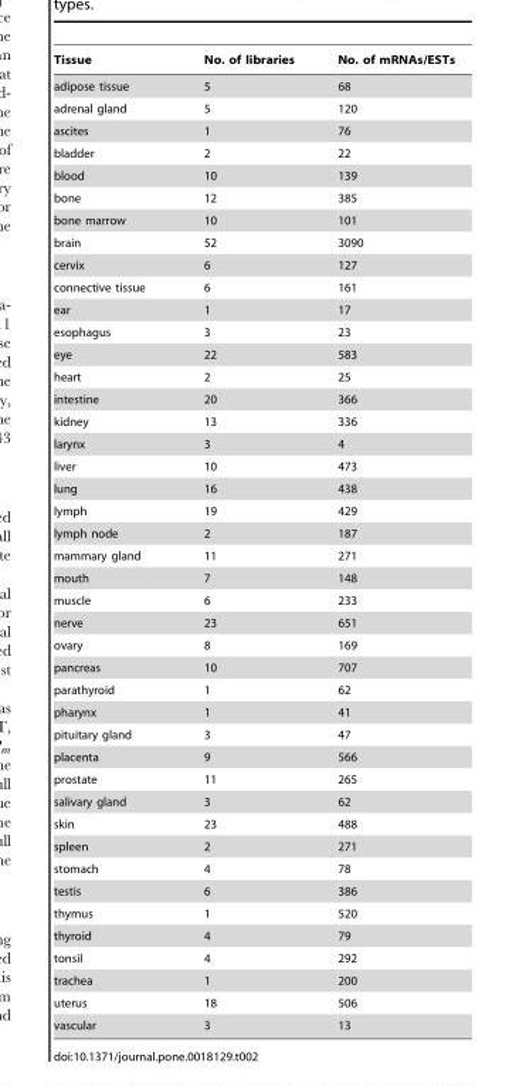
<table><thead><tr><td>Tissue</td><td>No. of libraries</td><td>No. of mRNAs/ESTs</td></tr></thead><tbody><tr><td>adipose tissue</td><td>5</td><td>68</td></tr><tr><td>adrenal gland</td><td>5</td><td>120</td></tr><tr><td>ascites</td><td>1</td><td>76</td></tr><tr><td>bladder</td><td>2</td><td>22</td></tr><tr><td>blood</td><td>10</td><td>139</td></tr><tr><td>bone</td><td>12</td><td>385</td></tr><tr><td>bone marrow</td><td>10</td><td>101</td></tr><tr><td>brain</td><td>52</td><td>3090</td></tr><tr><td>cervix</td><td>6</td><td>127</td></tr><tr><td>connective tissue</td><td>6</td><td>161</td></tr><tr><td>ear</td><td>1</td><td>17</td></tr><tr><td>esophagus</td><td>3</td><td>23</td></tr><tr><td>eye</td><td>22</td><td>583</td></tr><tr><td>heart</td><td>2</td><td>25</td></tr><tr><td>intestine</td><td>20</td><td>366</td></tr><tr><td>kidney</td><td>13</td><td>336</td></tr><tr><td>larynx</td><td>3</td><td>4</td></tr><tr><td>liver</td><td>10</td><td>473</td></tr><tr><td>lung</td><td>16</td><td>438</td></tr><tr><td>lymph</td><td>19</td><td>429</td></tr><tr><td>lymph node</td><td>2</td><td>187</td></tr><tr><td>mammary gland</td><td>11</td><td>271</td></tr><tr><td>mouth</td><td>7</td><td>148</td></tr><tr><td>muscle</td><td>6</td><td>233</td></tr><tr><td>nerve</td><td>23</td><td>651</td></tr><tr><td>ovary</td><td>8</td><td>169</td></tr><tr><td>pancreas</td><td>10</td><td>707</td></tr><tr><td>parathyroid</td><td>1</td><td>62</td></tr><tr><td>pharynx</td><td>1</td><td>41</td></tr><tr><td>pituitary gland</td><td>3</td><td>47</td></tr><tr><td>placenta</td><td>9</td><td>566</td></tr><tr><td>prostate</td><td>11</td><td>265</td></tr><tr><td>salivary gland</td><td>3</td><td>62</td></tr><tr><td>skin</td><td>23</td><td>488</td></tr><tr><td>spleen</td><td>2</td><td>271</td></tr><tr><td>stomach</td><td>4</td><td>78</td></tr><tr><td>testis</td><td>6</td><td>386</td></tr><tr><td>thymus</td><td>1</td><td>520</td></tr><tr><td>thyroid</td><td>4</td><td>79</td></tr><tr><td>tonsil</td><td>4</td><td>292</td></tr><tr><td>trachea</td><td>1</td><td>200</td></tr><tr><td>uterus</td><td>18</td><td>506</td></tr><tr><td>vascular</td><td>3</td><td>13</td></tr></tbody></table>